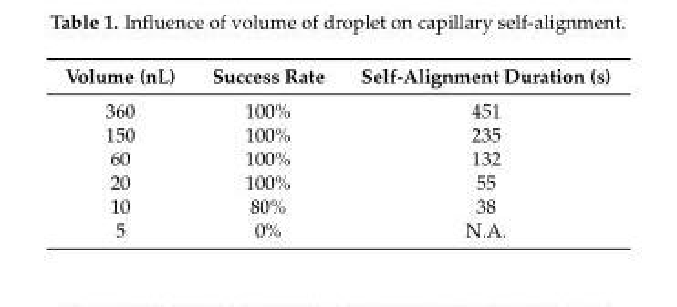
<table><thead><tr><td>Volume (nL)</td><td>Success Rate</td><td>Self-Alignment Duration (s)</td></tr></thead><tbody><tr><td>360</td><td>100%</td><td>451</td></tr><tr><td>150</td><td>100%</td><td>235</td></tr><tr><td>60</td><td>100%</td><td>132</td></tr><tr><td>20</td><td>100%</td><td>55</td></tr><tr><td>10</td><td>80%</td><td>38</td></tr><tr><td>5</td><td>0%</td><td>N.A.</td></tr></tbody></table>